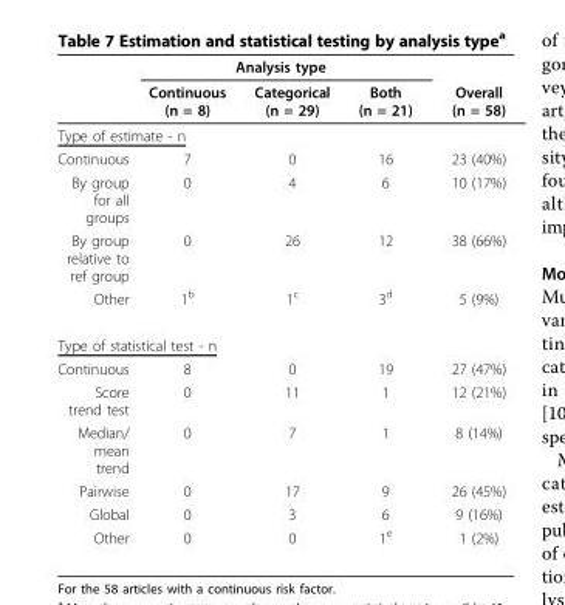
<table><thead><tr><td rowspan="2"></td><td colspan="3">Analysis type</td><td rowspan="2">Overall (n = 58)</td></tr><tr><td>Continuous (n = 8)</td><td>Categorical (n = 29)</td><td>Both (n = 21)</td></tr></thead><tbody><tr><td colspan="5">Type of estimate - n</td></tr><tr><td>Continuous</td><td>7</td><td>0</td><td>16</td><td>23 (40%)</td></tr><tr><td>By group for all groups</td><td>0</td><td>4</td><td>6</td><td>10 (17%)</td></tr><tr><td>By group relative to ref group</td><td>0</td><td>26</td><td>12</td><td>38 (66%)</td></tr><tr><td>Other</td><td>1<sup>b</sup></td><td>1<sup>c</sup></td><td>3<sup>d</sup></td><td>5 (9%)</td></tr><tr><td colspan="5">Type of statistical test - n</td></tr><tr><td>Continuous</td><td>8</td><td>0</td><td>19</td><td>27 (47%)</td></tr><tr><td>Score trend test</td><td>0</td><td>11</td><td>1</td><td>12 (21%)</td></tr><tr><td>Median/ mean trend</td><td>0</td><td>7</td><td>1</td><td>8 (14%)</td></tr><tr><td>Pairwise</td><td>0</td><td>17</td><td>9</td><td>26 (45%)</td></tr><tr><td>Global</td><td>0</td><td>3</td><td>6</td><td>9 (16%)</td></tr><tr><td>Other</td><td>0</td><td>0</td><td>1<sup>e</sup></td><td>1 (2%)</td></tr></tbody></table>